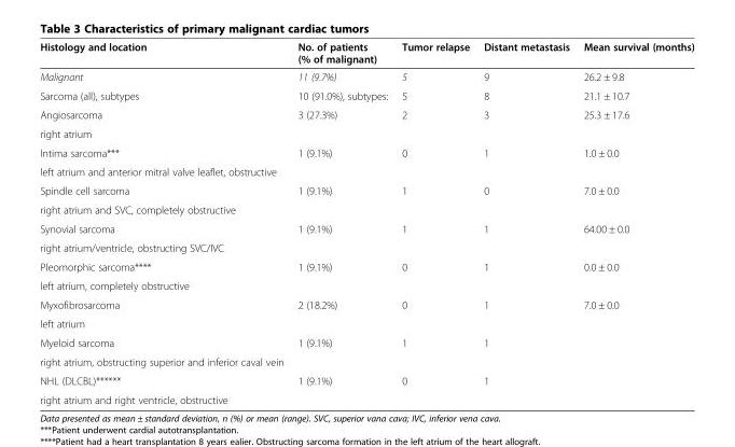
<table><thead><tr><td>Histology and location</td><td>No. of patients (% of malignant)</td><td>Tumor relapse</td><td>Distant metastasis</td><td>Mean survival (months)</td></tr></thead><tbody><tr><td>Malignant</td><td>11 (9.7%)</td><td>5</td><td>9</td><td>26.2 ± 9.8</td></tr><tr><td>Sarcoma (all), subtypes</td><td>10 (91.0%), subtypes:</td><td>5</td><td>8</td><td>21.1 ± 10.7</td></tr><tr><td>Angiosarcoma</td><td>3 (27.3%)</td><td>2</td><td>3</td><td>25.3 ± 17.6</td></tr><tr><td colspan="5">right atrium</td></tr><tr><td>Intima sarcoma***</td><td>1 (9.1%)</td><td>0</td><td>1</td><td>1.0 ± 0.0</td></tr><tr><td colspan="5">left atrium and anterior mitral valve leaflet, obstructive</td></tr><tr><td>Spindle cell sarcoma</td><td>1 (9.1%)</td><td>1</td><td>0</td><td>7.0 ± 0.0</td></tr><tr><td colspan="5">right atrium and SVC, completely obstructive</td></tr><tr><td>Synovial sarcoma</td><td>1 (9.1%)</td><td>1</td><td>1</td><td>64.00 ± 0.0</td></tr><tr><td colspan="5">right atrium/ventricle, obstructing SVC/IVC</td></tr><tr><td>Pleomorphic sarcoma****</td><td>1 (9.1%)</td><td>0</td><td>1</td><td>0.0 ± 0.0</td></tr><tr><td colspan="5">left atrium, completely obstructive</td></tr><tr><td>Myxofibrosarcoma</td><td>2 (18.2%)</td><td>0</td><td>1</td><td>7.0 ± 0.0</td></tr><tr><td colspan="5">left atrium</td></tr><tr><td>Myeloid sarcoma</td><td>1 (9.1%)</td><td>1</td><td>1</td><td></td></tr><tr><td colspan="5">right atrium, obstructing superior and inferior caval vein</td></tr><tr><td>NHL (DLCBL)******</td><td>1 (9.1%)</td><td>0</td><td>1</td><td></td></tr><tr><td>right atrium and right ventricle, obstructive</td><td></td><td></td><td></td><td></td></tr></tbody></table>